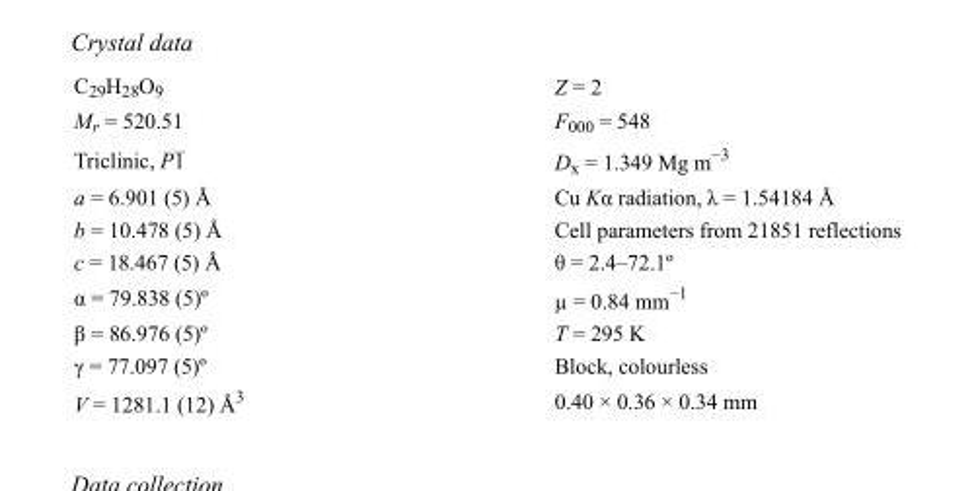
<table><tbody><tr><td>C<sub>29</sub>H<sub>28</sub>O<sub>9</sub></td><td>Z = 2</td></tr><tr><td>M<sub>r</sub> = 520.51</td><td>F000 = 548</td></tr><tr><td>Triclinic, P1</td><td>D<sub>x</sub> = 1.349 Mg m<sup>−3</sup></td></tr><tr><td>a = 6.901 (5) Å</td><td>Cu Kα radiation, λ = 1.54184 Å</td></tr><tr><td>b = 10.478 (5) Å</td><td>Cell parameters from 21851 reflections</td></tr><tr><td>c = 18.467 (5) Å</td><td>θ = 2.4–72.1º</td></tr><tr><td>α = 79.838 (5)º</td><td>µ = 0.84 mm<sup>−1</sup></td></tr><tr><td>β = 86.976 (5)º</td><td>T = 295 K</td></tr><tr><td>γ = 77.097 (5)º</td><td>Block, colourless</td></tr><tr><td>V = 1281.1 (12) Å<sup>3</sup></td><td>0.40 × 0.36 × 0.34 mm</td></tr></tbody></table>